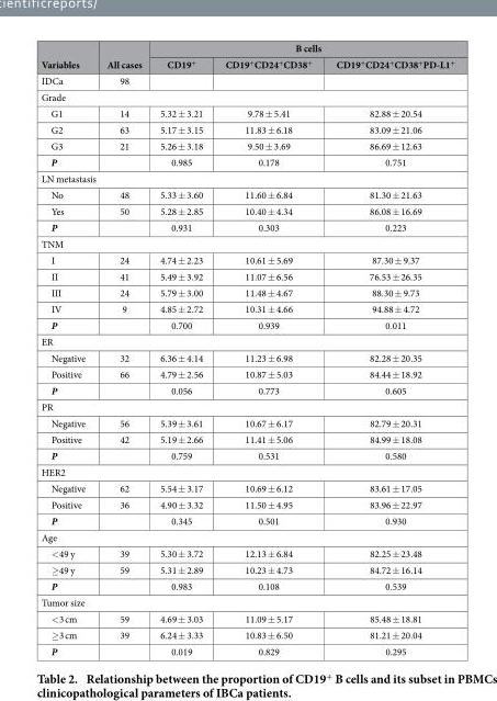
<table><thead><tr><td rowspan="2">Variables</td><td rowspan="2">All cases</td><td colspan="3">B cells</td></tr><tr><td>CD19<sup>+</sup></td><td>CD19<sup>+</sup>CD24<sup>+</sup>CD38<sup>+</sup></td><td>CD19<sup>+</sup>CD24<sup>+</sup>CD38<sup>+</sup>PD-L1<sup>+</sup></td></tr></thead><tbody><tr><td>IDCa</td><td>98</td><td></td><td></td><td></td></tr><tr><td colspan="5">Grade</td></tr><tr><td>G1</td><td>14</td><td>5.32 ± 3.21</td><td>9.78 ± 5.41</td><td>82.88 ± 20.54</td></tr><tr><td>G2</td><td>63</td><td>5.17 ± 3.15</td><td>11.83 ± 6.18</td><td>83.09 ± 21.06</td></tr><tr><td>G3</td><td>21</td><td>5.26 ± 3.18</td><td>9.50 ± 3.69</td><td>86.69 ± 12.63</td></tr><tr><td>P</td><td></td><td>0.985</td><td>0.178</td><td>0.751</td></tr><tr><td colspan="5">LN metastasis</td></tr><tr><td>No</td><td>48</td><td>5.33 ± 3.60</td><td>11.60 ± 6.84</td><td>81.30 ± 21.63</td></tr><tr><td>Yes</td><td>50</td><td>5.28 ± 2.85</td><td>10.40 ± 4.34</td><td>86.08 ± 16.69</td></tr><tr><td>P</td><td></td><td>0.931</td><td>0.303</td><td>0.223</td></tr><tr><td colspan="5">TNM</td></tr><tr><td>I</td><td>24</td><td>4.74 ± 2.23</td><td>10.61 ± 5.69</td><td>87.30 ± 9.37</td></tr><tr><td>II</td><td>41</td><td>5.49 ± 3.92</td><td>11.07 ± 6.56</td><td>76.53 ± 26.35</td></tr><tr><td>III</td><td>24</td><td>5.79 ± 3.00</td><td>11.48 ± 4.67</td><td>88.30 ± 9.73</td></tr><tr><td>IV</td><td>9</td><td>4.85 ± 2.72</td><td>10.31 ± 4.66</td><td>94.88 ± 4.72</td></tr><tr><td>P</td><td></td><td>0.700</td><td>0.939</td><td>0.011</td></tr><tr><td colspan="5">ER</td></tr><tr><td>Negative</td><td>32</td><td>6.36 ± 4.14</td><td>11.23 ± 6.98</td><td>82.28 ± 20.35</td></tr><tr><td>Positive</td><td>66</td><td>4.79 ± 2.56</td><td>10.87 ± 5.03</td><td>84.44 ± 18.92</td></tr><tr><td>P</td><td></td><td>0.056</td><td>0.773</td><td>0.605</td></tr><tr><td colspan="5">PR</td></tr><tr><td>Negative</td><td>56</td><td>5.39 ± 3.61</td><td>10.67 ± 6.17</td><td>82.79 ± 20.31</td></tr><tr><td>Positive</td><td>42</td><td>5.19 ± 2.66</td><td>11.41 ± 5.06</td><td>84.99 ± 18.08</td></tr><tr><td>P</td><td></td><td>0.759</td><td>0.531</td><td>0.580</td></tr><tr><td colspan="5">HER2</td></tr><tr><td>Negative</td><td>62</td><td>5.54 ± 3.17</td><td>10.69 ± 6.12</td><td>83.61 ± 17.05</td></tr><tr><td>Positive</td><td>36</td><td>4.90 ± 3.32</td><td>11.50 ± 4.95</td><td>83.96 ± 22.97</td></tr><tr><td>P</td><td></td><td>0.345</td><td>0.501</td><td>0.930</td></tr><tr><td colspan="5">Age</td></tr><tr><td>&lt; 49 y</td><td>39</td><td>5.30 ± 3.72</td><td>12.13 ± 6.84</td><td>82.25 ± 23.48</td></tr><tr><td>≥ 49 y</td><td>59</td><td>5.31 ± 2.89</td><td>10.23 ± 4.73</td><td>84.72 ± 16.14</td></tr><tr><td>P</td><td></td><td>0.983</td><td>0.108</td><td>0.539</td></tr><tr><td colspan="5">Tumor size</td></tr><tr><td>&lt; 3 cm</td><td>59</td><td>4.69 ± 3.03</td><td>11.09 ± 5.17</td><td>85.48 ± 18.81</td></tr><tr><td>≥ 3 cm</td><td>39</td><td>6.24 ± 3.33</td><td>10.83 ± 6.50</td><td>81.21 ± 20.04</td></tr><tr><td>P</td><td></td><td>0.019</td><td>0.829</td><td>0.295</td></tr></tbody></table>